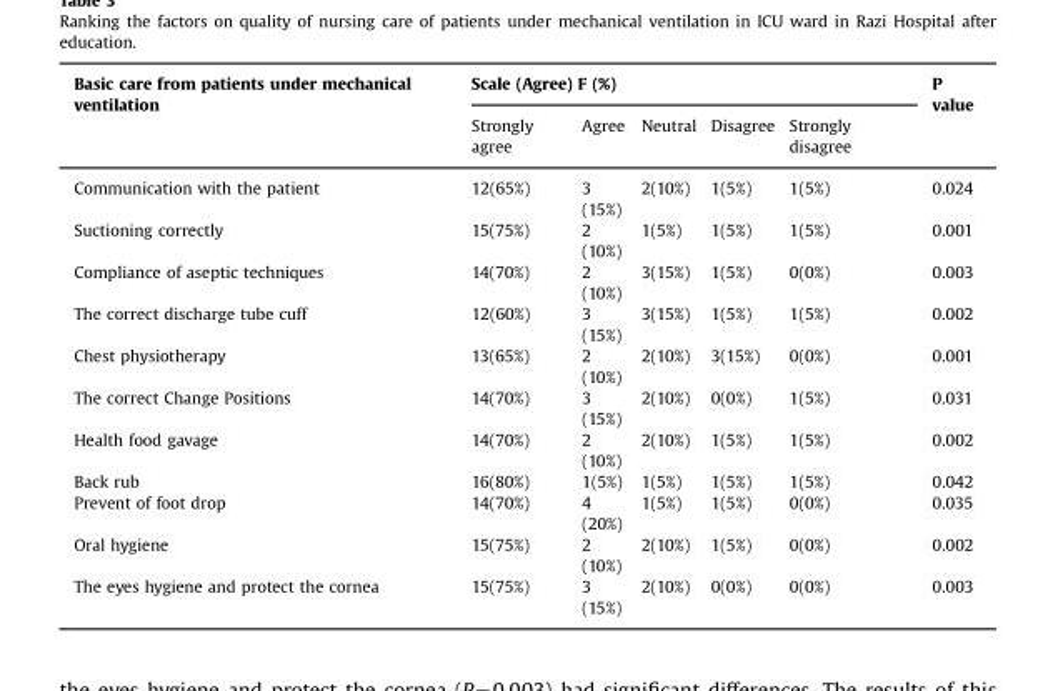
<table><thead><tr><td rowspan="2">Basic care from patients under mechanical ventilation</td><td colspan="5">Scale (Agree) F (%)</td><td rowspan="2">P value</td></tr><tr><td>Strongly agree</td><td>Agree</td><td>Neutral</td><td>Disagree</td><td>Strongly disagree</td></tr></thead><tbody><tr><td>Communication with the patient</td><td>12(65%)</td><td>3 (15%)</td><td>2(10%)</td><td>1(5%)</td><td>1(5%)</td><td>0.024</td></tr><tr><td>Suctioning correctly</td><td>15(75%)</td><td>2 (10%)</td><td>1(5%)</td><td>1(5%)</td><td>1(5%)</td><td>0.001</td></tr><tr><td>Compliance of aseptic techniques</td><td>14(70%)</td><td>2 (10%)</td><td>3(15%)</td><td>1(5%)</td><td>0(0%)</td><td>0.003</td></tr><tr><td>The correct discharge tube cuff</td><td>12(60%)</td><td>3 (15%)</td><td>3(15%)</td><td>1(5%)</td><td>1(5%)</td><td>0.002</td></tr><tr><td>Chest physiotherapy</td><td>13(65%)</td><td>2 (10%)</td><td>2(10%)</td><td>3(15%)</td><td>0(0%)</td><td>0.001</td></tr><tr><td>The correct Change Positions</td><td>14(70%)</td><td>3 (15%)</td><td>2(10%)</td><td>0(0%)</td><td>1(5%)</td><td>0.031</td></tr><tr><td>Health food gavage</td><td>14(70%)</td><td>2 (10%)</td><td>2(10%)</td><td>1(5%)</td><td>1(5%)</td><td>0.002</td></tr><tr><td>Back rub</td><td>16(80%)</td><td>1(5%)</td><td>1(5%)</td><td>1(5%)</td><td>1(5%)</td><td>0.042</td></tr><tr><td>Prevent of foot drop</td><td>14(70%)</td><td>4 (20%)</td><td>1(5%)</td><td>1(5%)</td><td>0(0%)</td><td>0.035</td></tr><tr><td>Oral hygiene</td><td>15(75%)</td><td>2 (10%)</td><td>2(10%)</td><td>1(5%)</td><td>0(0%)</td><td>0.002</td></tr><tr><td>The eyes hygiene and protect the cornea</td><td>15(75%)</td><td>3 (15%)</td><td>2(10%)</td><td>0(0%)</td><td>0(0%)</td><td>0.003</td></tr></tbody></table>